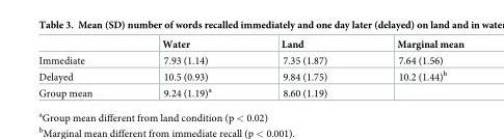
<table><thead><tr><td></td><td>Water</td><td>Land</td><td>Marginal mean</td></tr></thead><tbody><tr><td>Immediate</td><td>7.93 (1.14)</td><td>7.35 (1.87)</td><td>7.64 (1.56)</td></tr><tr><td>Delayed</td><td>10.5 (0.93)</td><td>9.84 (1.75)</td><td>10.2 (1.44)<sup>b</sup></td></tr><tr><td>Group mean</td><td>9.24 (1.19)<sup>a</sup></td><td>8.60 (1.19)</td><td></td></tr></tbody></table>